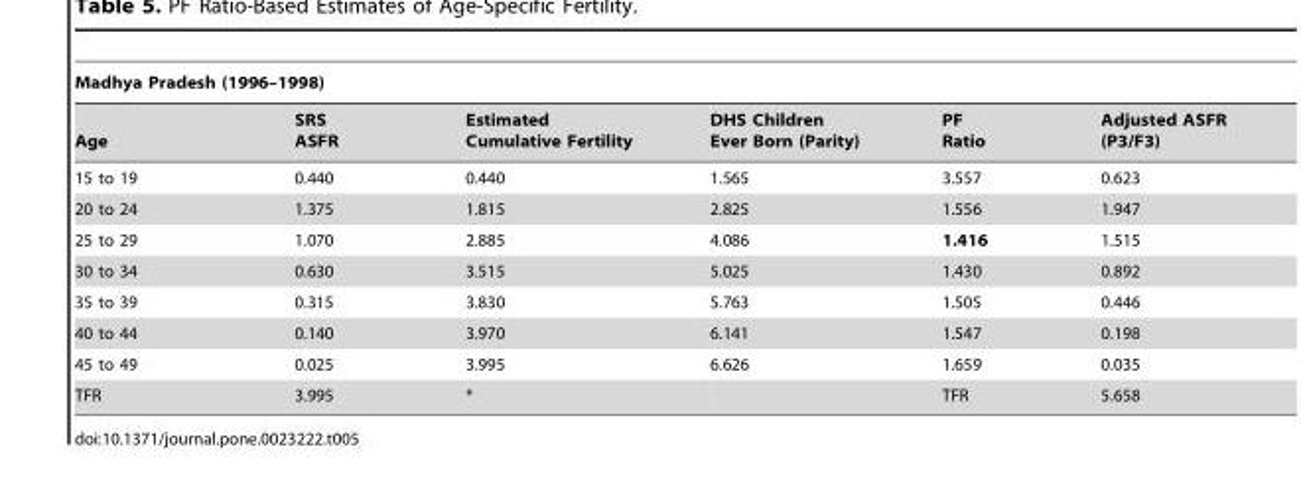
<table><thead><tr><td colspan="6">Madhya Pradesh (1996–1998)</td></tr><tr><td>Age</td><td>SRS ASFR</td><td>Estimated Cumulative Fertility</td><td>DHS Children Ever Born (Parity)</td><td>PF Ratio</td><td>Adjusted ASFR (P3/F3)</td></tr></thead><tbody><tr><td>15 to 19</td><td>0.440</td><td>0.440</td><td>1.565</td><td>3.557</td><td>0.623</td></tr><tr><td>20 to 24</td><td>1.375</td><td>1.815</td><td>2.825</td><td>1.556</td><td>1.947</td></tr><tr><td>25 to 29</td><td>1.070</td><td>2.885</td><td>4.086</td><td>1.416</td><td>1.515</td></tr><tr><td>30 to 34</td><td>0.630</td><td>3.515</td><td>5.025</td><td>1.430</td><td>0.892</td></tr><tr><td>35 to 39</td><td>0.315</td><td>3.830</td><td>5.763</td><td>1.505</td><td>0.446</td></tr><tr><td>40 to 44</td><td>0.140</td><td>3.970</td><td>6.141</td><td>1.547</td><td>0.198</td></tr><tr><td>45 to 49</td><td>0.025</td><td>3.995</td><td>6.626</td><td>1.659</td><td>0.035</td></tr><tr><td>TFR</td><td>3.995</td><td>*</td><td></td><td>TFR</td><td>5.658</td></tr></tbody></table>